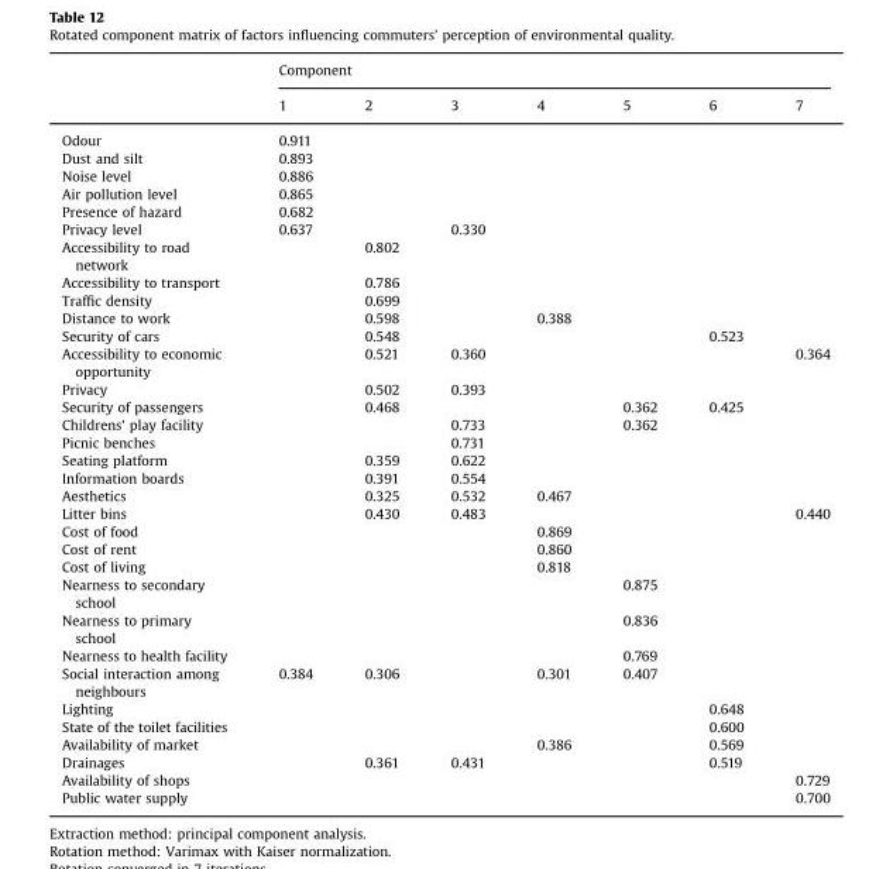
<table><thead><tr><td rowspan="2"></td><td colspan="7">Component</td></tr><tr><td>1</td><td>2</td><td>3</td><td>4</td><td>5</td><td>6</td><td>7</td></tr></thead><tbody><tr><td>Odour</td><td>0.911</td><td></td><td></td><td></td><td></td><td></td><td></td></tr><tr><td>Dust and silt</td><td>0.893</td><td></td><td></td><td></td><td></td><td></td><td></td></tr><tr><td>Noise level</td><td>0.886</td><td></td><td></td><td></td><td></td><td></td><td></td></tr><tr><td>Air pollution level</td><td>0.865</td><td></td><td></td><td></td><td></td><td></td><td></td></tr><tr><td>Presence of hazard</td><td>0.682</td><td></td><td></td><td></td><td></td><td></td><td></td></tr><tr><td>Privacy level</td><td>0.637</td><td></td><td>0.330</td><td></td><td></td><td></td><td></td></tr><tr><td>Accessibility to road network</td><td></td><td>0.802</td><td></td><td></td><td></td><td></td><td></td></tr><tr><td>Accessibility to transport</td><td></td><td>0.786</td><td></td><td></td><td></td><td></td><td></td></tr><tr><td>Traffic density</td><td></td><td>0.699</td><td></td><td></td><td></td><td></td><td></td></tr><tr><td>Distance to work</td><td></td><td>0.598</td><td></td><td>0.388</td><td></td><td></td><td></td></tr><tr><td>Security of cars</td><td></td><td>0.548</td><td></td><td></td><td></td><td>0.523</td><td></td></tr><tr><td>Accessibility to economic opportunity</td><td></td><td>0.521</td><td>0.360</td><td></td><td></td><td></td><td>0.364</td></tr><tr><td>Privacy</td><td></td><td>0.502</td><td>0.393</td><td></td><td></td><td></td><td></td></tr><tr><td>Security of passengers</td><td></td><td>0.468</td><td></td><td></td><td>0.362</td><td>0.425</td><td></td></tr><tr><td>Childrens&#x27; play facility</td><td></td><td></td><td>0.733</td><td></td><td>0.362</td><td></td><td></td></tr><tr><td>Picnic benches</td><td></td><td></td><td>0.731</td><td></td><td></td><td></td><td></td></tr><tr><td>Seating platform</td><td></td><td>0.359</td><td>0.622</td><td></td><td></td><td></td><td></td></tr><tr><td>Information boards</td><td></td><td>0.391</td><td>0.554</td><td></td><td></td><td></td><td></td></tr><tr><td>Aesthetics</td><td></td><td>0.325</td><td>0.532</td><td>0.467</td><td></td><td></td><td></td></tr><tr><td>Litter bins</td><td></td><td>0.430</td><td>0.483</td><td></td><td></td><td></td><td>0.440</td></tr><tr><td>Cost of food</td><td></td><td></td><td></td><td>0.869</td><td></td><td></td><td></td></tr><tr><td>Cost of rent</td><td></td><td></td><td></td><td>0.860</td><td></td><td></td><td></td></tr><tr><td>Cost of living</td><td></td><td></td><td></td><td>0.818</td><td></td><td></td><td></td></tr><tr><td>Nearness to secondary school</td><td></td><td></td><td></td><td></td><td>0.875</td><td></td><td></td></tr><tr><td>Nearness to primary school</td><td></td><td></td><td></td><td></td><td>0.836</td><td></td><td></td></tr><tr><td>Nearness to health facility</td><td></td><td></td><td></td><td></td><td>0.769</td><td></td><td></td></tr><tr><td>Social interaction among neighbours</td><td>0.384</td><td>0.306</td><td></td><td>0.301</td><td>0.407</td><td></td><td></td></tr><tr><td>Lighting</td><td></td><td></td><td></td><td></td><td></td><td>0.648</td><td></td></tr><tr><td>State of the toilet facilities</td><td></td><td></td><td></td><td></td><td></td><td>0.600</td><td></td></tr><tr><td>Availability of market</td><td></td><td></td><td></td><td>0.386</td><td></td><td>0.569</td><td></td></tr><tr><td>Drainages</td><td></td><td>0.361</td><td>0.431</td><td></td><td></td><td>0.519</td><td></td></tr><tr><td>Availability of shops</td><td></td><td></td><td></td><td></td><td></td><td></td><td>0.729</td></tr><tr><td>Public water supply</td><td></td><td></td><td></td><td></td><td></td><td></td><td>0.700</td></tr></tbody></table>